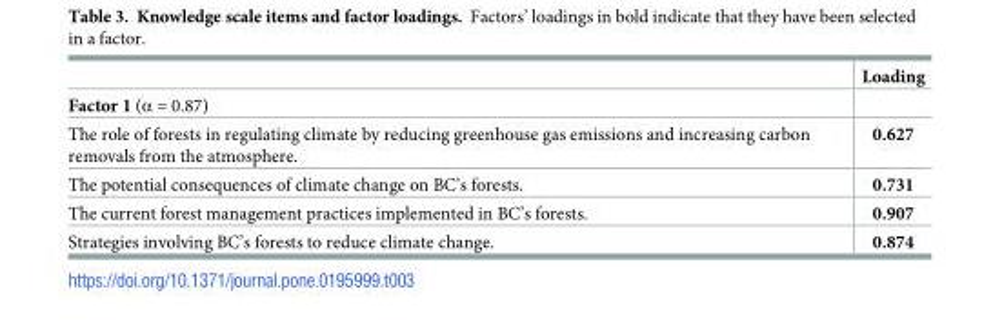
<table><thead><tr><td></td><td>Loading</td></tr></thead><tbody><tr><td colspan="2">Factor 1 (α = 0.87)</td></tr><tr><td>The role of forests in regulating climate by reducing greenhouse gas emissions and increasing carbon removals from the atmosphere.</td><td>0.627</td></tr><tr><td>The potential consequences of climate change on BC’s forests.</td><td>0.731</td></tr><tr><td>The current forest management practices implemented in BC’s forests.</td><td>0.907</td></tr><tr><td>Strategies involving BC’s forests to reduce climate change.</td><td>0.874</td></tr></tbody></table>